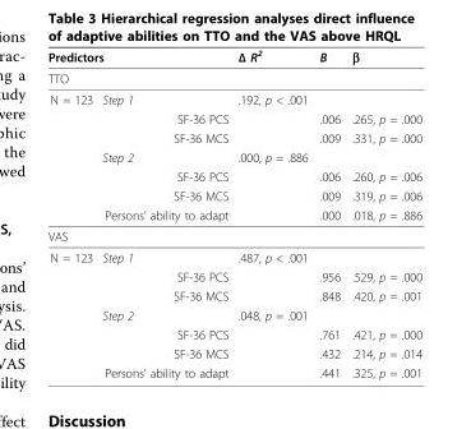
<table><thead><tr><td colspan="2">Predictors</td><td rowspan="2">Δ R<sup>2</sup></td><td rowspan="2">B</td><td rowspan="2">β</td></tr><tr><td>TTO</td><td></td></tr></thead><tbody><tr><td rowspan="7">N = 123</td><td>Step 1</td><td>.192, p &lt; .001</td><td></td><td></td></tr><tr><td>SF-36 PCS</td><td></td><td>.006</td><td>.265, p = .000</td></tr><tr><td>SF-36 MCS</td><td></td><td>.009</td><td>.331, p = .000</td></tr><tr><td>Step 2</td><td>.000, p = .886</td><td></td><td></td></tr><tr><td>SF-36 PCS</td><td></td><td>.006</td><td>.260, p = .006</td></tr><tr><td>SF-36 MCS</td><td></td><td>.009</td><td>.319, p = .006</td></tr><tr><td>Persons’ ability to adapt</td><td></td><td>.000</td><td>.018, p = .886</td></tr><tr><td colspan="5">VAS</td></tr><tr><td rowspan="7">N = 123</td><td>Step 1</td><td>.487, p &lt; .001</td><td></td><td></td></tr><tr><td>SF-36 PCS</td><td></td><td>.956</td><td>.529, p = .000</td></tr><tr><td>SF-36 MCS</td><td></td><td>.848</td><td>.420, p = .001</td></tr><tr><td>Step 2</td><td>.048, p = .001</td><td></td><td></td></tr><tr><td>SF-36 PCS</td><td></td><td>.761</td><td>.421, p = .000</td></tr><tr><td>SF-36 MCS</td><td></td><td>.432</td><td>.214, p = .014</td></tr><tr><td>Persons’ ability to adapt</td><td></td><td>.441</td><td>.325, p = .001</td></tr></tbody></table>